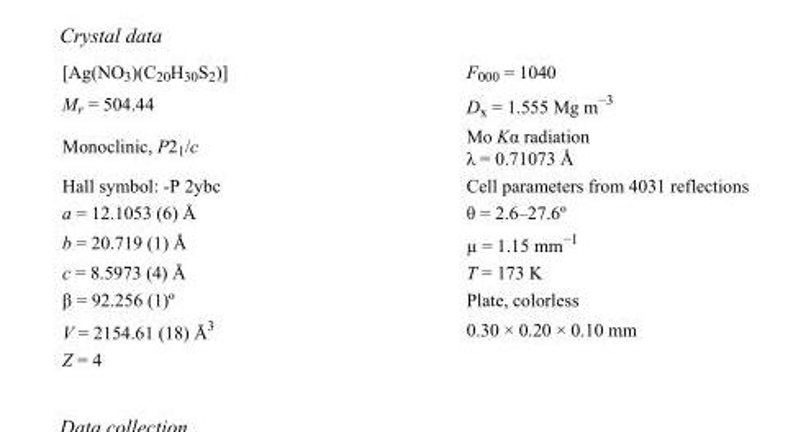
<table><tbody><tr><td>[Ag(NO<sub>3</sub>)(C<sub>20</sub>H<sub>30</sub>S<sub>2</sub>)]</td><td>F000 = 1040</td></tr><tr><td>M<sub>r</sub> = 504.44</td><td>D<sub>x</sub> = 1.555 Mg m<sup>−3</sup></td></tr><tr><td>Monoclinic, P2<sub>1</sub>/c</td><td>Mo Kα radiation λ = 0.71073 Å</td></tr><tr><td>Hall symbol: -P 2ybc</td><td>Cell parameters from 4031 reflections</td></tr><tr><td>a = 12.1053 (6) Å</td><td>θ = 2.6–27.6º</td></tr><tr><td>b = 20.719 (1) Å</td><td>µ = 1.15 mm<sup>−1</sup></td></tr><tr><td>c = 8.5973 (4) Å</td><td>T = 173 K</td></tr><tr><td>β = 92.256 (1)º</td><td>Plate, colorless</td></tr><tr><td>V = 2154.61 (18) Å<sup>3</sup></td><td>0.30 × 0.20 × 0.10 mm</td></tr><tr><td>Z = 4</td><td></td></tr></tbody></table>